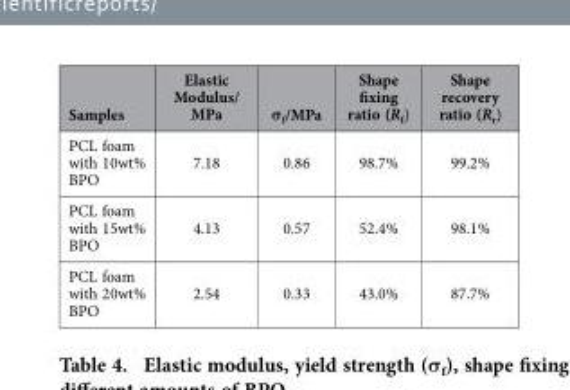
<table><thead><tr><td>Samples</td><td>Elastic Modulus/ MPa</td><td>σ<sub>f</sub>/MPa</td><td>Shape fixing ratio (R<sub>f</sub>)</td><td>Shape recovery ratio (R<sub>r</sub>)</td></tr></thead><tbody><tr><td>PCL foam with 10wt% BPO</td><td>7.18</td><td>0.86</td><td>98.7%</td><td>99.2%</td></tr><tr><td>PCL foam with 15wt% BPO</td><td>4.13</td><td>0.57</td><td>52.4%</td><td>98.1%</td></tr><tr><td>PCL foam with 20wt% BPO</td><td>2.54</td><td>0.33</td><td>43.0%</td><td>87.7%</td></tr></tbody></table>